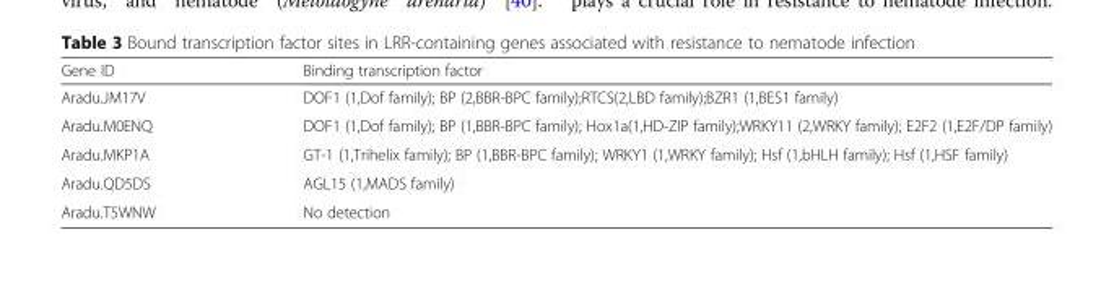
<table><thead><tr><td>Gene ID</td><td>Binding transcription factor</td></tr></thead><tbody><tr><td>Aradu.JM17V</td><td>DOF1 (1,Dof family); BP (2,BBR-BPC family);RTCS(2,LBD family);BZR1 (1,BES1 family)</td></tr><tr><td>Aradu.M0ENQ</td><td>DOF1 (1,Dof family); BP (1,BBR-BPC family); Hox1a(1,HD-ZIP family);WRKY11 (2,WRKY family); E2F2 (1,E2F/DP family)</td></tr><tr><td>Aradu.MKP1A</td><td>GT-1 (1,Trihelix family); BP (1,BBR-BPC family); WRKY1 (1,WRKY family); Hsf (1,bHLH family); Hsf (1,HSF family)</td></tr><tr><td>Aradu.QD5DS</td><td>AGL15 (1,MADS family)</td></tr><tr><td>Aradu.T5WNW</td><td>No detection</td></tr></tbody></table>